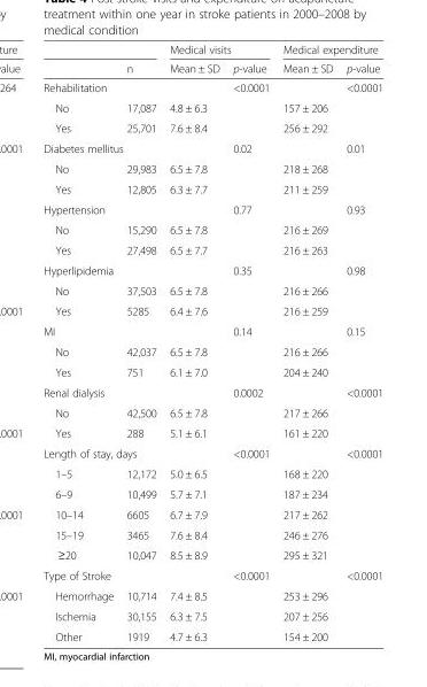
<table><thead><tr><td rowspan="2"></td><td rowspan="2">n</td><td colspan="2">Medical visits</td><td colspan="2">Medical expenditure</td></tr><tr><td>Mean ± SD</td><td>p-value</td><td>Mean ± SD</td><td>p-value</td></tr></thead><tbody><tr><td colspan="3">Rehabilitation</td><td>&lt;0.0001</td><td></td><td>&lt;0.0001</td></tr><tr><td>No</td><td>17,087</td><td>4.8 ± 6.3</td><td></td><td>157 ± 206</td><td></td></tr><tr><td>Yes</td><td>25,701</td><td>7.6 ± 8.4</td><td></td><td>256 ± 292</td><td></td></tr><tr><td colspan="3">Diabetes mellitus</td><td>0.02</td><td></td><td>0.01</td></tr><tr><td>No</td><td>29,983</td><td>6.5 ± 7.8</td><td></td><td>218 ± 268</td><td></td></tr><tr><td>Yes</td><td>12,805</td><td>6.3 ± 7.7</td><td></td><td>211 ± 259</td><td></td></tr><tr><td colspan="3">Hypertension</td><td>0.77</td><td></td><td>0.93</td></tr><tr><td>No</td><td>15,290</td><td>6.5 ± 7.8</td><td></td><td>216 ± 269</td><td></td></tr><tr><td>Yes</td><td>27,498</td><td>6.5 ± 7.7</td><td></td><td>216 ± 263</td><td></td></tr><tr><td colspan="3">Hyperlipidemia</td><td>0.35</td><td></td><td>0.98</td></tr><tr><td>No</td><td>37,503</td><td>6.5 ± 7.8</td><td></td><td>216 ± 266</td><td></td></tr><tr><td>Yes</td><td>5285</td><td>6.4 ± 7.6</td><td></td><td>216 ± 259</td><td></td></tr><tr><td colspan="2">MI</td><td></td><td>0.14</td><td></td><td>0.15</td></tr><tr><td>No</td><td>42,037</td><td>6.5 ± 7.8</td><td></td><td>216 ± 266</td><td></td></tr><tr><td>Yes</td><td>751</td><td>6.1 ± 7.0</td><td></td><td>204 ± 240</td><td></td></tr><tr><td colspan="3">Renal dialysis</td><td>0.0002</td><td></td><td>&lt;0.0001</td></tr><tr><td>No</td><td>42,500</td><td>6.5 ± 7.8</td><td></td><td>217 ± 266</td><td></td></tr><tr><td>Yes</td><td>288</td><td>5.1 ± 6.1</td><td></td><td>161 ± 220</td><td></td></tr><tr><td colspan="3">Length of stay, days</td><td>&lt;0.0001</td><td></td><td>&lt;0.0001</td></tr><tr><td>1–5</td><td>12,172</td><td>5.0 ± 6.5</td><td></td><td>168 ± 220</td><td></td></tr><tr><td>6–9</td><td>10,499</td><td>5.7 ± 7.1</td><td></td><td>187 ± 234</td><td></td></tr><tr><td>10–14</td><td>6605</td><td>6.7 ± 7.9</td><td></td><td>217 ± 262</td><td></td></tr><tr><td>15–19</td><td>3465</td><td>7.6 ± 8.4</td><td></td><td>246 ± 276</td><td></td></tr><tr><td>≥20</td><td>10,047</td><td>8.5 ± 8.9</td><td></td><td>295 ± 321</td><td></td></tr><tr><td colspan="3">Type of Stroke</td><td>&lt;0.0001</td><td></td><td>&lt;0.0001</td></tr><tr><td>Hemorrhage</td><td>10,714</td><td>7.4 ± 8.5</td><td></td><td>253 ± 296</td><td></td></tr><tr><td>Ischemia</td><td>30,155</td><td>6.3 ± 7.5</td><td></td><td>207 ± 256</td><td></td></tr><tr><td>Other</td><td>1919</td><td>4.7 ± 6.3</td><td></td><td>154 ± 200</td><td></td></tr></tbody></table>